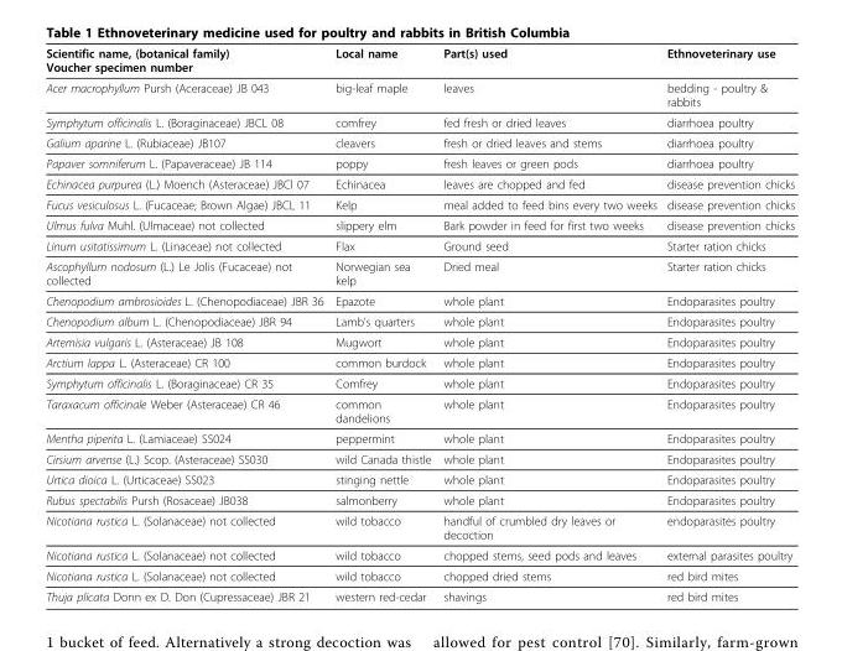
<table><thead><tr><td>Scientific name, (botanical family) Voucher specimen number</td><td>Local name</td><td>Part(s) used</td><td>Ethnoveterinary use</td></tr></thead><tbody><tr><td>Acer macrophyllum Pursh (Aceraceae) JB 043</td><td>big-leaf maple</td><td>leaves</td><td>bedding - poultry &amp; rabbits</td></tr><tr><td>Symphytum officinalis L. (Boraginaceae) JBCL 08</td><td>comfrey</td><td>fed fresh or dried leaves</td><td>diarrhoea poultry</td></tr><tr><td>Galium aparine L. (Rubiaceae) JB107</td><td>cleavers</td><td>fresh or dried leaves and stems</td><td>diarrhoea poultry</td></tr><tr><td>Papaver somniferum L. (Papaveraceae) JB 114</td><td>poppy</td><td>fresh leaves or green pods</td><td>diarrhoea poultry</td></tr><tr><td>Echinacea purpurea (L.) Moench (Asteraceae) JBCl 07</td><td>Echinacea</td><td>leaves are chopped and fed</td><td>disease prevention chicks</td></tr><tr><td>Fucus vesiculosus L. (Fucaceae; Brown Algae) JBCL 11</td><td>Kelp</td><td>meal added to feed bins every two weeks</td><td>disease prevention chicks</td></tr><tr><td>Ulmus fulva Muhl. (Ulmaceae) not collected</td><td>slippery elm</td><td>Bark powder in feed for first two weeks</td><td>disease prevention chicks</td></tr><tr><td>Linum usitatissimum L. (Linaceae) not collected</td><td>Flax</td><td>Ground seed</td><td>Starter ration chicks</td></tr><tr><td>Ascophyllum nodosum (L.) Le Jolis (Fucaceae) not collected</td><td>Norwegian sea kelp</td><td>Dried meal</td><td>Starter ration chicks</td></tr><tr><td>Chenopodium ambrosioides L. (Chenopodiaceae) JBR 36</td><td>Epazote</td><td>whole plant</td><td>Endoparasites poultry</td></tr><tr><td>Chenopodium album L. (Chenopodiaceae) JBR 94</td><td>Lamb’s quarters</td><td>whole plant</td><td>Endoparasites poultry</td></tr><tr><td>Artemisia vulgaris L. (Asteraceae) JB 108</td><td>Mugwort</td><td>whole plant</td><td>Endoparasites poultry</td></tr><tr><td>Arctium lappa L. (Asteraceae) CR 100</td><td>common burdock</td><td>whole plant</td><td>Endoparasites poultry</td></tr><tr><td>Symphytum officinalis L. (Boraginaceae) CR 35</td><td>Comfrey</td><td>whole plant</td><td>Endoparasites poultry</td></tr><tr><td>Taraxacum officinale Weber (Asteraceae) CR 46</td><td>common dandelions</td><td>whole plant</td><td>Endoparasites poultry</td></tr><tr><td>Mentha piperita L. (Lamiaceae) SS024</td><td>peppermint</td><td>whole plant</td><td>Endoparasites poultry</td></tr><tr><td>Cirsium arvense (L.) Scop. (Asteraceae) SS030</td><td>wild Canada thistle</td><td>whole plant</td><td>Endoparasites poultry</td></tr><tr><td>Urtica dioica L. (Urticaceae) SS023</td><td>stinging nettle</td><td>whole plant</td><td>Endoparasites poultry</td></tr><tr><td>Rubus spectabilis Pursh (Rosaceae) JB038</td><td>salmonberry</td><td>whole plant</td><td>Endoparasites poultry</td></tr><tr><td>Nicotiana rustica L. (Solanaceae) not collected</td><td>wild tobacco</td><td>handful of crumbled dry leaves or decoction</td><td>endoparasites poultry</td></tr><tr><td>Nicotiana rustica L. (Solanaceae) not collected</td><td>wild tobacco</td><td>chopped stems, seed pods and leaves</td><td>external parasites poultry</td></tr><tr><td>Nicotiana rustica L. (Solanaceae) not collected</td><td>wild tobacco</td><td>chopped dried stems</td><td>red bird mites</td></tr><tr><td>Thuja plicata Donn ex D. Don (Cupressaceae) JBR 21</td><td>western red-cedar</td><td>shavings</td><td>red bird mites</td></tr></tbody></table>